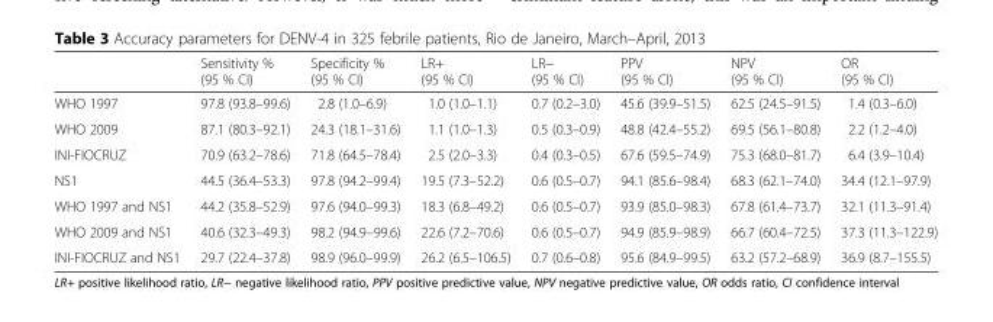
<table><thead><tr><td></td><td>Sensitivity % (95 % CI)</td><td>Specificity % (95 % CI)</td><td>LR+ (95 % CI)</td><td>LR− (95 % CI)</td><td>PPV (95 % CI)</td><td>NPV (95 % CI)</td><td>OR (95 % CI)</td></tr></thead><tbody><tr><td>WHO 1997</td><td>97.8 (93.8–99.6)</td><td>2.8 (1.0–6.9)</td><td>1.0 (1.0–1.1)</td><td>0.7 (0.2–3.0)</td><td>45.6 (39.9–51.5)</td><td>62.5 (24.5–91.5)</td><td>1.4 (0.3–6.0)</td></tr><tr><td>WHO 2009</td><td>87.1 (80.3–92.1)</td><td>24.3 (18.1–31.6)</td><td>1.1 (1.0–1.3)</td><td>0.5 (0.3–0.9)</td><td>48.8 (42.4–55.2)</td><td>69.5 (56.1–80.8)</td><td>2.2 (1.2–4.0)</td></tr><tr><td>INI-FIOCRUZ</td><td>70.9 (63.2–78.6)</td><td>71.8 (64.5–78.4)</td><td>2.5 (2.0–3.3)</td><td>0.4 (0.3–0.5)</td><td>67.6 (59.5–74.9)</td><td>75.3 (68.0–81.7)</td><td>6.4 (3.9–10.4)</td></tr><tr><td>NS1</td><td>44.5 (36.4–53.3)</td><td>97.8 (94.2–99.4)</td><td>19.5 (7.3–52.2)</td><td>0.6 (0.5–0.7)</td><td>94.1 (85.6–98.4)</td><td>68.3 (62.1–74.0)</td><td>34.4 (12.1–97.9)</td></tr><tr><td>WHO 1997 and NS1</td><td>44.2 (35.8–52.9)</td><td>97.6 (94.0–99.3)</td><td>18.3 (6.8–49.2)</td><td>0.6 (0.5–0.7)</td><td>93.9 (85.0–98.3)</td><td>67.8 (61.4–73.7)</td><td>32.1 (11.3–91.4)</td></tr><tr><td>WHO 2009 and NS1</td><td>40.6 (32.3–49.3)</td><td>98.2 (94.9–99.6)</td><td>22.6 (7.2–70.6)</td><td>0.6 (0.5–0.7)</td><td>94.9 (85.9–98.9)</td><td>66.7 (60.4–72.5)</td><td>37.3 (11.3–122.9)</td></tr><tr><td>INI-FIOCRUZ and NS1</td><td>29.7 (22.4–37.8)</td><td>98.9 (96.0–99.9)</td><td>26.2 (6.5–106.5)</td><td>0.7 (0.6–0.8)</td><td>95.6 (84.9–99.5)</td><td>63.2 (57.2–68.9)</td><td>36.9 (8.7–155.5)</td></tr></tbody></table>